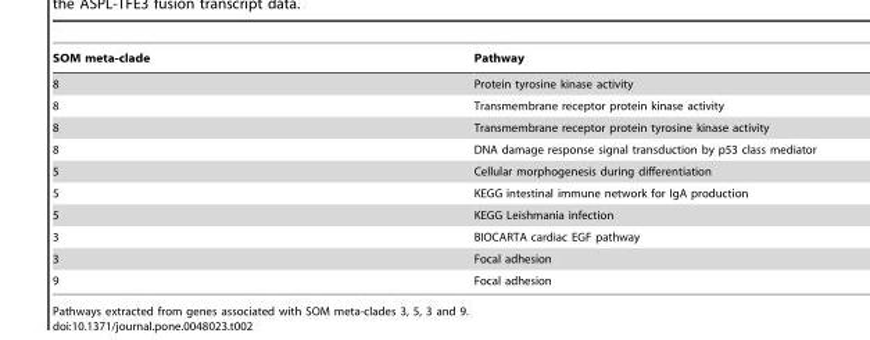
<table><thead><tr><td>SOM meta-clade</td><td>Pathway</td></tr></thead><tbody><tr><td>8</td><td>Protein tyrosine kinase activity</td></tr><tr><td>8</td><td>Transmembrane receptor protein kinase activity</td></tr><tr><td>8</td><td>Transmembrane receptor protein tyrosine kinase activity</td></tr><tr><td>8</td><td>DNA damage response signal transduction by p53 class mediator</td></tr><tr><td>5</td><td>Cellular morphogenesis during differentiation</td></tr><tr><td>5</td><td>KEGG intestinal immune network for IgA production</td></tr><tr><td>5</td><td>KEGG Leishmania infection</td></tr><tr><td>3</td><td>BIOCARTA cardiac EGF pathway</td></tr><tr><td>3</td><td>Focal adhesion</td></tr><tr><td>9</td><td>Focal adhesion</td></tr></tbody></table>